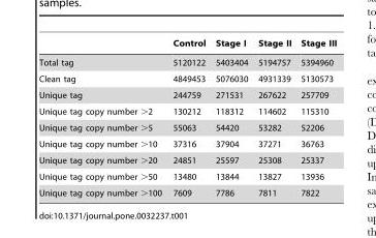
<table><thead><tr><td></td><td>Control</td><td>Stage I</td><td>Stage II</td><td>Stage III</td></tr></thead><tbody><tr><td>Total tag</td><td>5120122</td><td>5403404</td><td>5194757</td><td>5394960</td></tr><tr><td>Clean tag</td><td>4849453</td><td>5076030</td><td>4931339</td><td>5130573</td></tr><tr><td>Unique tag</td><td>244759</td><td>271531</td><td>267622</td><td>257709</td></tr><tr><td>Unique tag copy number &gt;2</td><td>130212</td><td>118312</td><td>114602</td><td>115310</td></tr><tr><td>Unique tag copy number &gt;5</td><td>55063</td><td>54420</td><td>53282</td><td>52206</td></tr><tr><td>Unique tag copy number &gt;10</td><td>37316</td><td>37904</td><td>37271</td><td>36763</td></tr><tr><td>Unique tag copy number &gt;20</td><td>24851</td><td>25597</td><td>25308</td><td>25337</td></tr><tr><td>Unique tag copy number &gt;50</td><td>13480</td><td>13844</td><td>13827</td><td>13936</td></tr><tr><td>Unique tag copy number &gt;100</td><td>7609</td><td>7786</td><td>7811</td><td>7822</td></tr></tbody></table>